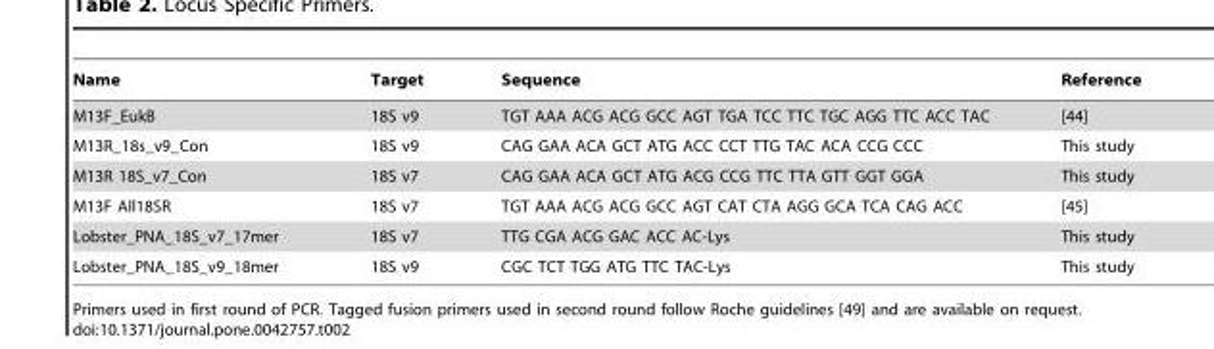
<table><thead><tr><td>Name</td><td>Target</td><td>Sequence</td><td>Reference</td></tr></thead><tbody><tr><td>M13F_EukB</td><td>18S v9</td><td>TGT AAA ACG ACG GCC AGT TGA TCC TTC TGC AGG TTC ACC TAC</td><td>[44]</td></tr><tr><td>M13R_18s_v9_Con</td><td>18S v9</td><td>CAG GAA ACA GCT ATG ACC CCT TTG TAC ACA CCG CCC</td><td>This study</td></tr><tr><td>M13R 18S_v7_Con</td><td>18S v7</td><td>CAG GAA ACA GCT ATG ACG CCG TTC TTA GTT GGT GGA</td><td>This study</td></tr><tr><td>M13F All18SR</td><td>18S v7</td><td>TGT AAA ACG ACG GCC AGT CAT CTA AGG GCA TCA CAG ACC</td><td>[45]</td></tr><tr><td>Lobster_PNA_18S_v7_17mer</td><td>18S v7</td><td>TTG CGA ACG GAC ACC AC-Lys</td><td>This study</td></tr><tr><td>Lobster_PNA_18S_v9_18mer</td><td>18S v9</td><td>CGC TCT TGG ATG TTC TAC-Lys</td><td>This study</td></tr></tbody></table>